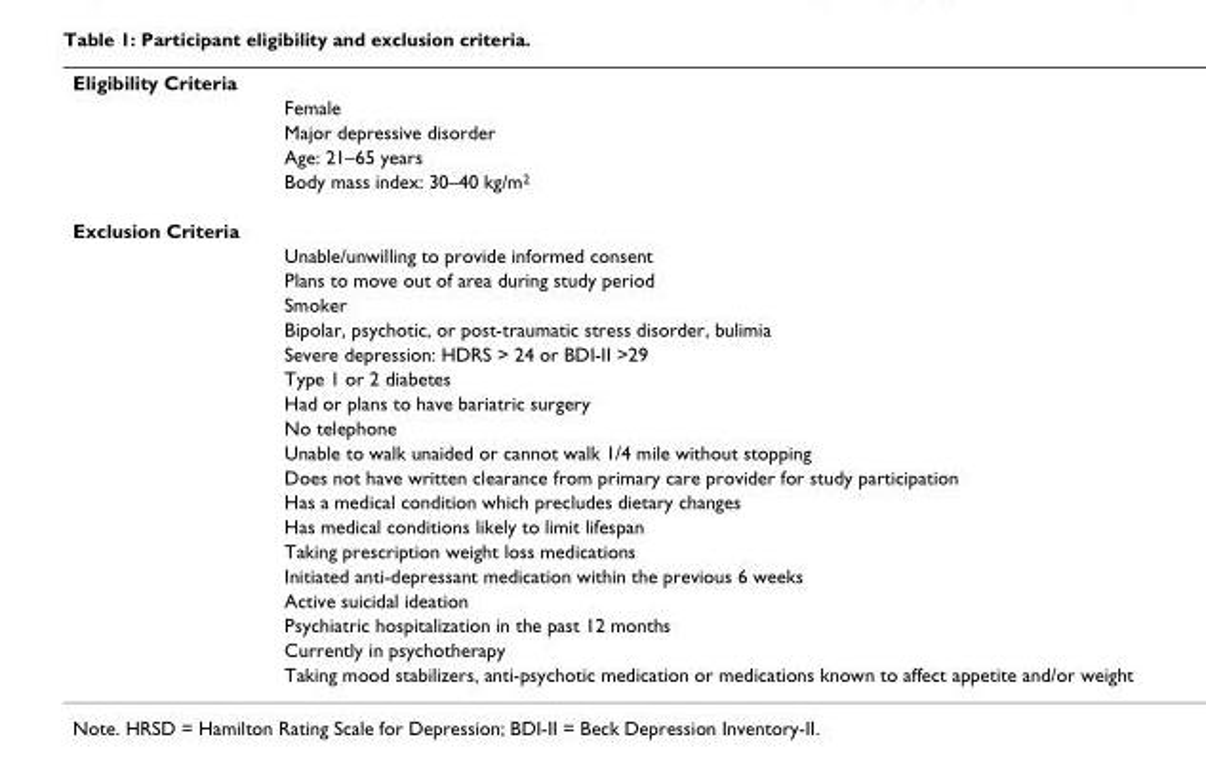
<table><tbody><tr><td colspan="2">Eligibility Criteria</td></tr><tr><td></td><td>Female</td></tr><tr><td></td><td>Major depressive disorder</td></tr><tr><td></td><td>Age: 21–65 years</td></tr><tr><td></td><td>Body mass index: 30–40 kg/m<sup>2</sup></td></tr><tr><td colspan="2">Exclusion Criteria</td></tr><tr><td></td><td>Unable/unwilling to provide informed consent</td></tr><tr><td></td><td>Plans to move out of area during study period</td></tr><tr><td></td><td>Smoker</td></tr><tr><td></td><td>Bipolar, psychotic, or post-traumatic stress disorder, bulimia</td></tr><tr><td></td><td>Severe depression: HDRS &gt; 24 or BDI-II &gt;29</td></tr><tr><td></td><td>Type 1 or 2 diabetes</td></tr><tr><td></td><td>Had or plans to have bariatric surgery</td></tr><tr><td></td><td>No telephone</td></tr><tr><td></td><td>Unable to walk unaided or cannot walk 1/4 mile without stopping</td></tr><tr><td></td><td>Does not have written clearance from primary care provider for study participation</td></tr><tr><td></td><td>Has a medical condition which precludes dietary changes</td></tr><tr><td></td><td>Has medical conditions likely to limit lifespan</td></tr><tr><td></td><td>Taking prescription weight loss medications</td></tr><tr><td></td><td>Initiated anti-depressant medication within the previous 6 weeks</td></tr><tr><td></td><td>Active suicidal ideation</td></tr><tr><td></td><td>Psychiatric hospitalization in the past 12 months</td></tr><tr><td></td><td>Currently in psychotherapy</td></tr><tr><td></td><td>Taking mood stabilizers, anti-psychotic medication or medications known to affect appetite and/or weight</td></tr></tbody></table>